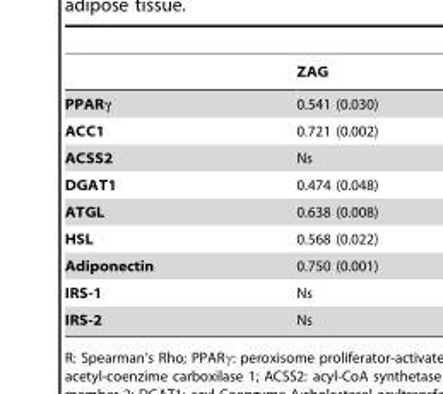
<table><thead><tr><td></td><td>ZAG</td></tr></thead><tbody><tr><td>PPARγ</td><td>0.541 (0.030)</td></tr><tr><td>ACC1</td><td>0.721 (0.002)</td></tr><tr><td>ACSS2</td><td>Ns</td></tr><tr><td>DGAT1</td><td>0.474 (0.048)</td></tr><tr><td>ATGL</td><td>0.638 (0.008)</td></tr><tr><td>HSL</td><td>0.568 (0.022)</td></tr><tr><td>Adiponectin</td><td>0.750 (0.001)</td></tr><tr><td>IRS-1</td><td>Ns</td></tr><tr><td>IRS-2</td><td>Ns</td></tr></tbody></table>